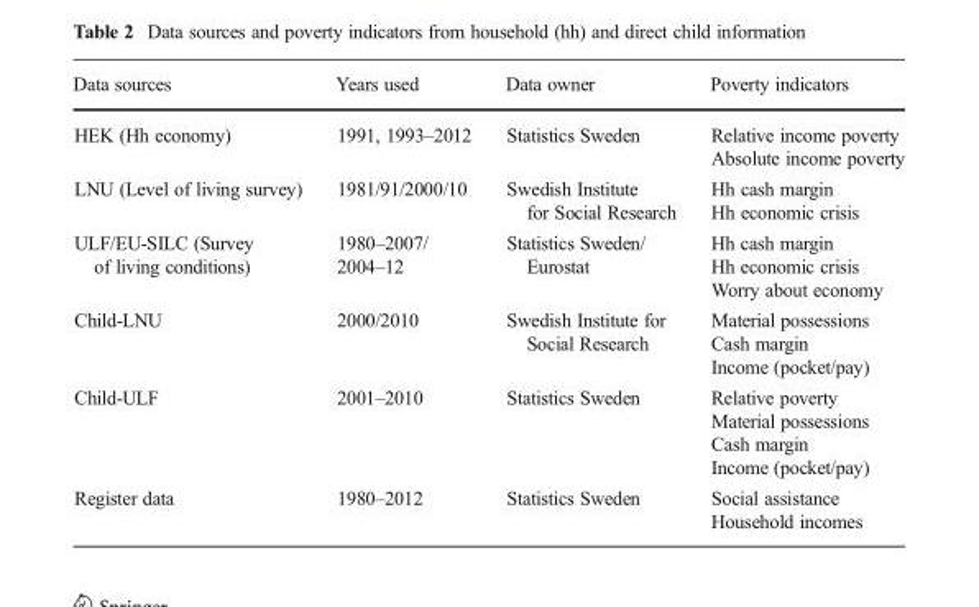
<table><thead><tr><td>Data sources</td><td>Years used</td><td>Data owner</td><td>Poverty indicators</td></tr></thead><tbody><tr><td>HEK (Hh economy)</td><td>1991, 1993–2012</td><td>Statistics Sweden</td><td>Relative income poverty Absolute income poverty</td></tr><tr><td>LNU (Level of living survey)</td><td>1981/91/2000/10</td><td>Swedish Institute for Social Research</td><td>Hh cash margin Hh economic crisis</td></tr><tr><td>ULF/EU-SILC (Survey of living conditions)</td><td>1980–2007/ 2004–12</td><td>Statistics Sweden/ Eurostat</td><td>Hh cash margin Hh economic crisis Worry about economy</td></tr><tr><td>Child-LNU</td><td>2000/2010</td><td>Swedish Institute for Social Research</td><td>Material possessions Cash margin Income (pocket/pay)</td></tr><tr><td>Child-ULF</td><td>2001–2010</td><td>Statistics Sweden</td><td>Relative poverty Material possessions Cash margin Income (pocket/pay)</td></tr><tr><td>Register data</td><td>1980–2012</td><td>Statistics Sweden</td><td>Social assistance Household incomes</td></tr></tbody></table>